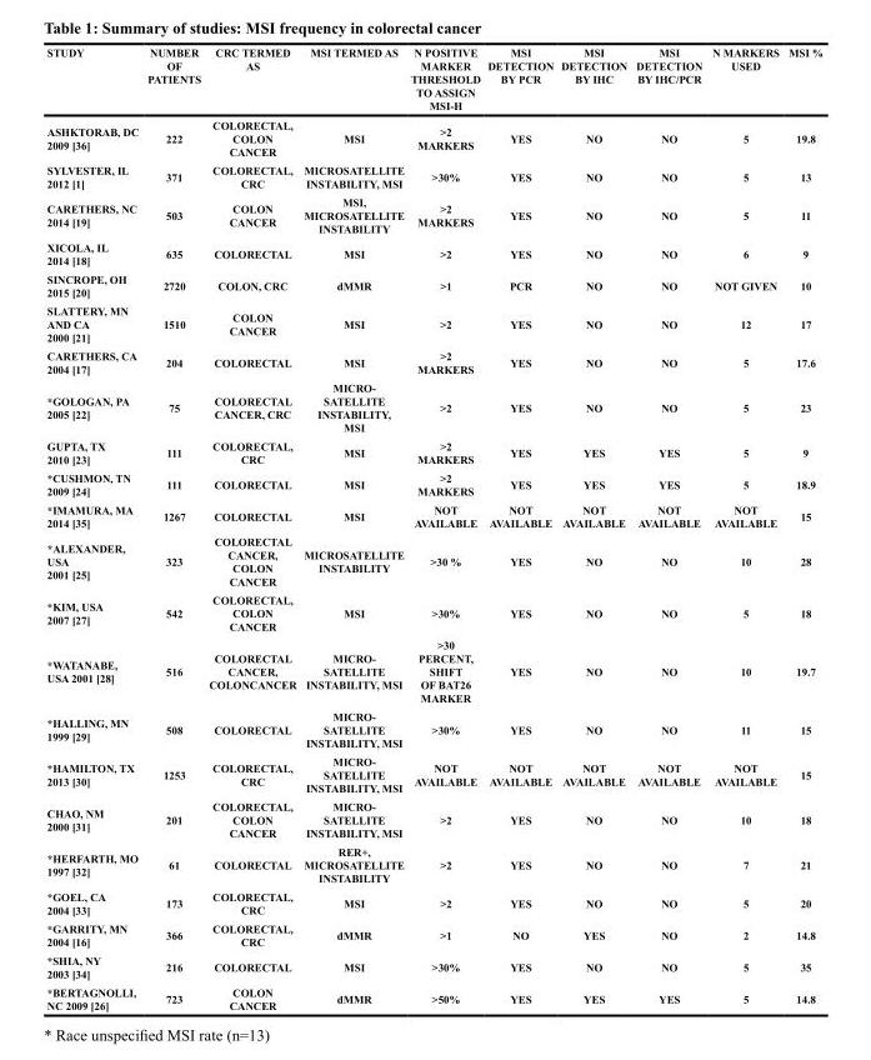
<table><thead><tr><td>STUDY</td><td>NUMBER OF PATIENTS</td><td>CRC TERMED AS</td><td>MSI TERMED AS</td><td>N POSITIVE MARKER THRESHOLD TO ASSIGN MSI-H</td><td>MSI DETECTION BY PCR</td><td>MSI DETECTION BY IHC</td><td>MSI DETECTION BY IHC/PCR</td><td>N MARKERS USED</td><td>MSI %</td></tr></thead><tbody><tr><td>ASHKTORAB, DC 2009 [36]</td><td>222</td><td>COLORECTAL, COLON CANCER</td><td>MSI</td><td>&gt;2 MARKERS</td><td>YES</td><td>NO</td><td>NO</td><td>5</td><td>19.8</td></tr><tr><td>SYLVESTER, IL 2012 [1]</td><td>371</td><td>COLORECTAL, CRC</td><td>MICROSATELLITE INSTABILITY, MSI</td><td>&gt;30%</td><td>YES</td><td>NO</td><td>NO</td><td>5</td><td>13</td></tr><tr><td>CARETHERS, NC 2014 [19]</td><td>503</td><td>COLON CANCER</td><td>MSI, MICROSATELLITE INSTABILITY</td><td>&gt;2 MARKERS</td><td>YES</td><td>NO</td><td>NO</td><td>5</td><td>11</td></tr><tr><td>XICOLA, IL 2014 [18]</td><td>635</td><td>COLORECTAL</td><td>MSI</td><td>&gt;2</td><td>YES</td><td>NO</td><td>NO</td><td>6</td><td>9</td></tr><tr><td>SINCROPE, OH 2015 [20]</td><td>2720</td><td>COLON, CRC</td><td>dMMR</td><td>&gt;1</td><td>PCR</td><td>NO</td><td>NO</td><td>NOT GIVEN</td><td>10</td></tr><tr><td>SLATTERY, MN AND CA 2000 [21]</td><td>1510</td><td>COLON CANCER</td><td>MSI</td><td>&gt;2</td><td>YES</td><td>NO</td><td>NO</td><td>12</td><td>17</td></tr><tr><td>CARETHERS, CA 2004 [17]</td><td>204</td><td>COLORECTAL</td><td>MSI</td><td>&gt;2 MARKERS</td><td>YES</td><td>NO</td><td>NO</td><td>5</td><td>17.6</td></tr><tr><td>*GOLOGAN, PA 2005 [22]</td><td>75</td><td>COLORECTAL CANCER, CRC</td><td>MICRO- SATELLITE INSTABILITY, MSI</td><td>&gt;2</td><td>YES</td><td>NO</td><td>NO</td><td>5</td><td>23</td></tr><tr><td>GUPTA, TX 2010 [23]</td><td>111</td><td>COLORECTAL, CRC</td><td>MSI</td><td>&gt;2 MARKERS</td><td>YES</td><td>YES</td><td>YES</td><td>5</td><td>9</td></tr><tr><td>*CUSHMON, TN 2009 [24]</td><td>111</td><td>COLORECTAL</td><td>MSI</td><td>&gt;2 MARKERS</td><td>YES</td><td>YES</td><td>YES</td><td>5</td><td>18.9</td></tr><tr><td>*IMAMURA, MA 2014 [35]</td><td>1267</td><td>COLORECTAL</td><td>MSI</td><td>NOT AVAILABLE</td><td>NOT AVAILABLE</td><td>NOT AVAILABLE</td><td>NOT AVAILABLE</td><td>NOT AVAILABLE</td><td>15</td></tr><tr><td>*ALEXANDER, USA 2001 [25]</td><td>323</td><td>COLORECTAL CANCER, COLON CANCER</td><td>MICROSATELLITE INSTABILITY</td><td>&gt;30 %</td><td>YES</td><td>NO</td><td>NO</td><td>10</td><td>28</td></tr><tr><td>*KIM, USA 2007 [27]</td><td>542</td><td>COLORECTAL, COLON CANCER</td><td>MSI</td><td>&gt;30%</td><td>YES</td><td>NO</td><td>NO</td><td>5</td><td>18</td></tr><tr><td>*WATANABE, USA 2001 [28]</td><td>516</td><td>COLORECTAL CANCER, COLONCANCER</td><td>MICRO- SATELLITE INSTABILITY, MSI</td><td>&gt;30 PERCENT, SHIFT OF BAT26 MARKER</td><td>YES</td><td>NO</td><td>NO</td><td>10</td><td>19.7</td></tr><tr><td>*HALLING, MN 1999 [29]</td><td>508</td><td>COLORECTAL</td><td>MICRO- SATELLITE INSTABILITY, MSI</td><td>&gt;30%</td><td>YES</td><td>NO</td><td>NO</td><td>11</td><td>15</td></tr><tr><td>*HAMILTON, TX 2013 [30]</td><td>1253</td><td>COLORECTAL, CRC</td><td>MICRO- SATELLITE INSTABILITY, MSI</td><td>NOT AVAILABLE</td><td>NOT AVAILABLE</td><td>NOT AVAILABLE</td><td>NOT AVAILABLE</td><td>NOT AVAILABLE</td><td>15</td></tr><tr><td>CHAO, NM 2000 [31]</td><td>201</td><td>COLORECTAL, COLON CANCER</td><td>MICRO- SATELLITE INSTABILITY, MSI</td><td>&gt;2</td><td>YES</td><td>NO</td><td>NO</td><td>10</td><td>18</td></tr><tr><td>*HERFARTH, MO 1997 [32]</td><td>61</td><td>COLORECTAL</td><td>RER+, MICROSATELLITE INSTABILITY</td><td>&gt;2</td><td>YES</td><td>NO</td><td>NO</td><td>7</td><td>21</td></tr><tr><td>*GOEL, CA 2004 [33]</td><td>173</td><td>COLORECTAL, CRC</td><td>MSI</td><td>&gt;2</td><td>YES</td><td>NO</td><td>NO</td><td>5</td><td>20</td></tr><tr><td>*GARRITY, MN 2004 [16]</td><td>366</td><td>COLORECTAL, CRC</td><td>dMMR</td><td>&gt;1</td><td>NO</td><td>YES</td><td>NO</td><td>2</td><td>14.8</td></tr><tr><td>*SHIA, NY 2003 [34]</td><td>216</td><td>COLORECTAL</td><td>MSI</td><td>&gt;30%</td><td>YES</td><td>NO</td><td>NO</td><td>5</td><td>35</td></tr><tr><td>*BERTAGNOLLI, NC 2009 [26]</td><td>723</td><td>COLON CANCER</td><td>dMMR</td><td>&gt;50%</td><td>YES</td><td>YES</td><td>YES</td><td>5</td><td>14.8</td></tr></tbody></table>